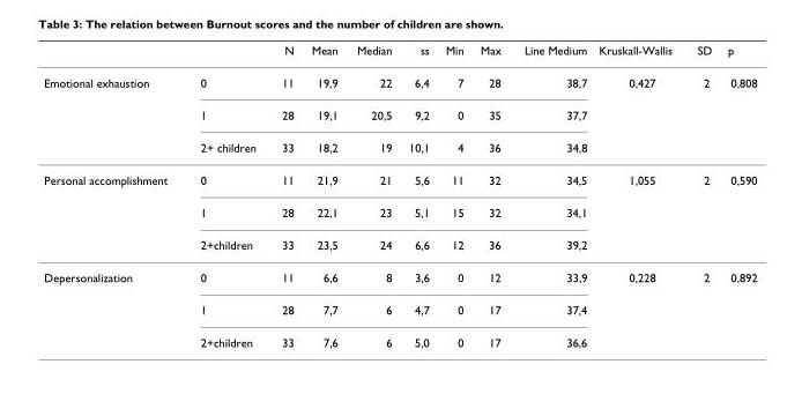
<table><thead><tr><td></td><td></td><td>N</td><td>Mean</td><td>Median</td><td>ss</td><td>Min</td><td>Max</td><td>Line Medium</td><td>Kruskall-Wallis</td><td>SD</td><td>p</td></tr></thead><tbody><tr><td rowspan="3">Emotional exhaustion</td><td>0</td><td>11</td><td>19,9</td><td>22</td><td>6,4</td><td>7</td><td>28</td><td>38,7</td><td>0,427</td><td>2</td><td>0,808</td></tr><tr><td>1</td><td>28</td><td>19,1</td><td>20,5</td><td>9,2</td><td>0</td><td>35</td><td>37,7</td><td></td><td></td><td></td></tr><tr><td>2+ children</td><td>33</td><td>18,2</td><td>19</td><td>10,1</td><td>4</td><td>36</td><td>34,8</td><td></td><td></td><td></td></tr><tr><td rowspan="3">Personal accomplishment</td><td>0</td><td>11</td><td>21,9</td><td>21</td><td>5,6</td><td>11</td><td>32</td><td>34,5</td><td>1,055</td><td>2</td><td>0,590</td></tr><tr><td>1</td><td>28</td><td>22,1</td><td>23</td><td>5,1</td><td>15</td><td>32</td><td>34,1</td><td></td><td></td><td></td></tr><tr><td>2+children</td><td>33</td><td>23,5</td><td>24</td><td>6,6</td><td>12</td><td>36</td><td>39,2</td><td></td><td></td><td></td></tr><tr><td rowspan="3">Depersonalization</td><td>0</td><td>11</td><td>6,6</td><td>8</td><td>3,6</td><td>0</td><td>12</td><td>33,9</td><td>0,228</td><td>2</td><td>0,892</td></tr><tr><td>1</td><td>28</td><td>7,7</td><td>6</td><td>4,7</td><td>0</td><td>17</td><td>37,4</td><td></td><td></td><td></td></tr><tr><td>2+children</td><td>33</td><td>7,6</td><td>6</td><td>5,0</td><td>0</td><td>17</td><td>36,6</td><td></td><td></td><td></td></tr></tbody></table>